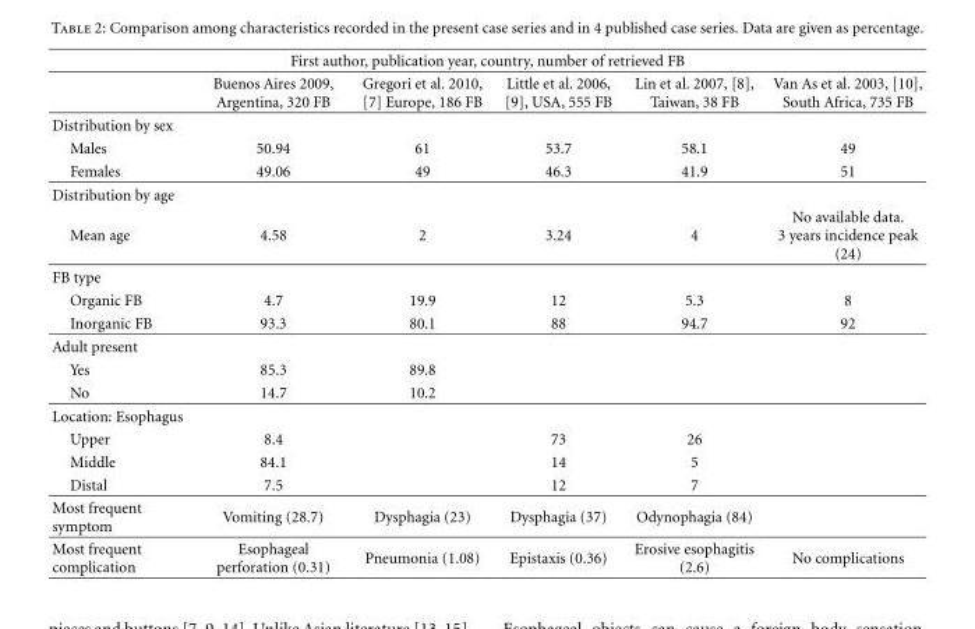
<table><thead><tr><td colspan="6">First author, publication year, country, number of retrieved FB</td></tr><tr><td></td><td>Buenos Aires 2009, Argentina, 320 FB</td><td>Gregori et al. 2010, [7] Europe, 186 FB</td><td>Little et al. 2006, [9], USA, 555 FB</td><td>Lin et al. 2007, [8], Taiwan, 38 FB</td><td>Van As et al. 2003, [10], South Africa, 735 FB</td></tr></thead><tbody><tr><td colspan="6">Distribution by sex</td></tr><tr><td>Males</td><td>50.94</td><td>61</td><td>53.7</td><td>58.1</td><td>49</td></tr><tr><td>Females</td><td>49.06</td><td>49</td><td>46.3</td><td>41.9</td><td>51</td></tr><tr><td colspan="6">Distribution by age</td></tr><tr><td>Mean age</td><td>4.58</td><td>2</td><td>3.24</td><td>4</td><td>No available data. 3 years incidence peak (24)</td></tr><tr><td colspan="6">FB type</td></tr><tr><td>Organic FB</td><td>4.7</td><td>19.9</td><td>12</td><td>5.3</td><td>8</td></tr><tr><td>Inorganic FB</td><td>93.3</td><td>80.1</td><td>88</td><td>94.7</td><td>92</td></tr><tr><td colspan="6">Adult present</td></tr><tr><td>Yes</td><td>85.3</td><td>89.8</td><td></td><td></td><td></td></tr><tr><td>No</td><td>14.7</td><td>10.2</td><td></td><td></td><td></td></tr><tr><td colspan="6">Location: Esophagus</td></tr><tr><td>Upper</td><td>8.4</td><td></td><td>73</td><td>26</td><td></td></tr><tr><td>Middle</td><td>84.1</td><td></td><td>14</td><td>5</td><td></td></tr><tr><td>Distal</td><td>7.5</td><td></td><td>12</td><td>7</td><td></td></tr><tr><td>Most frequent symptom</td><td>Vomiting (28.7)</td><td>Dysphagia (23)</td><td>Dysphagia (37)</td><td>Odynophagia (84)</td><td></td></tr><tr><td>Most frequent complication</td><td>Esophageal perforation (0.31)</td><td>Pneumonia (1.08)</td><td>Epistaxis (0.36)</td><td>Erosive esophagitis (2.6)</td><td>No complications</td></tr></tbody></table>